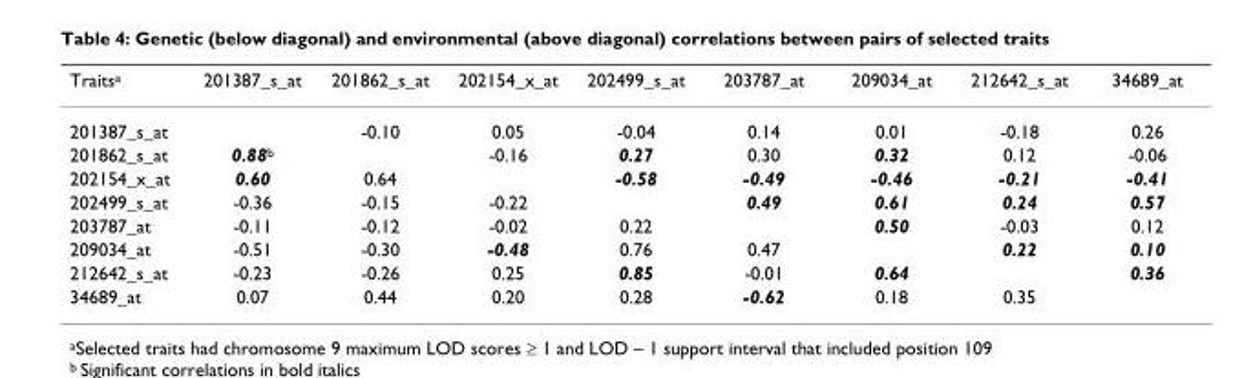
<table><thead><tr><td>Traits<sup>a</sup></td><td>201387_s_at</td><td>201862_s_at</td><td>202154_x_at</td><td>202499_s_at</td><td>203787_at</td><td>209034_at</td><td>212642_s_at</td><td>34689_at</td></tr></thead><tbody><tr><td>201387_s_at</td><td></td><td>-0.10</td><td>0.05</td><td>-0.04</td><td>0.14</td><td>0.01</td><td>-0.18</td><td>0.26</td></tr><tr><td>201862_s_at</td><td>0.88<sup>b</sup></td><td></td><td>-0.16</td><td>0.27</td><td>0.30</td><td>0.32</td><td>0.12</td><td>-0.06</td></tr><tr><td>202154_x_at</td><td>0.60</td><td>0.64</td><td></td><td>-0.58</td><td>-0.49</td><td>-0.46</td><td>-0.21</td><td>-0.41</td></tr><tr><td>202499_s_at</td><td>-0.36</td><td>-0.15</td><td>-0.22</td><td></td><td>0.49</td><td>0.61</td><td>0.24</td><td>0.57</td></tr><tr><td>203787_at</td><td>-0.11</td><td>-0.12</td><td>-0.02</td><td>0.22</td><td></td><td>0.50</td><td>-0.03</td><td>0.12</td></tr><tr><td>209034_at</td><td>-0.51</td><td>-0.30</td><td>-0.48</td><td>0.76</td><td>0.47</td><td></td><td>0.22</td><td>0.10</td></tr><tr><td>212642_s_at</td><td>-0.23</td><td>-0.26</td><td>0.25</td><td>0.85</td><td>-0.01</td><td>0.64</td><td></td><td>0.36</td></tr><tr><td>34689_at</td><td>0.07</td><td>0.44</td><td>0.20</td><td>0.28</td><td>-0.62</td><td>0.18</td><td>0.35</td><td></td></tr></tbody></table>